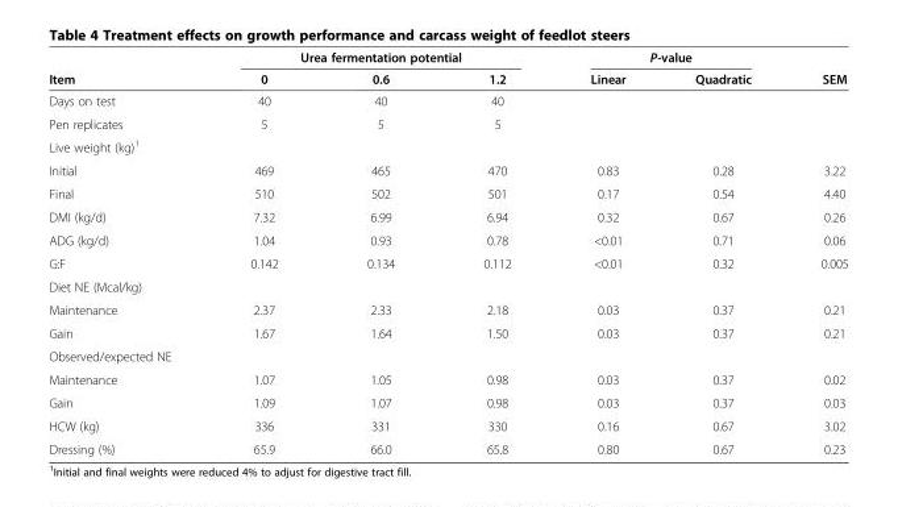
<table><thead><tr><td rowspan="2">Item</td><td colspan="3">Urea fermentation potential</td><td colspan="2">P-value</td><td rowspan="2">SEM</td></tr><tr><td>0</td><td>0.6</td><td>1.2</td><td>Linear</td><td>Quadratic</td></tr></thead><tbody><tr><td>Days on test</td><td>40</td><td>40</td><td>40</td><td></td><td></td><td></td></tr><tr><td>Pen replicates</td><td>5</td><td>5</td><td>5</td><td></td><td></td><td></td></tr><tr><td colspan="7">Live weight (kg)<sup>1</sup></td></tr><tr><td>Initial</td><td>469</td><td>465</td><td>470</td><td>0.83</td><td>0.28</td><td>3.22</td></tr><tr><td>Final</td><td>510</td><td>502</td><td>501</td><td>0.17</td><td>0.54</td><td>4.40</td></tr><tr><td>DMI (kg/d)</td><td>7.32</td><td>6.99</td><td>6.94</td><td>0.32</td><td>0.67</td><td>0.26</td></tr><tr><td>ADG (kg/d)</td><td>1.04</td><td>0.93</td><td>0.78</td><td>&lt;0.01</td><td>0.71</td><td>0.06</td></tr><tr><td>G:F</td><td>0.142</td><td>0.134</td><td>0.112</td><td>&lt;0.01</td><td>0.32</td><td>0.005</td></tr><tr><td colspan="7">Diet NE (Mcal/kg)</td></tr><tr><td>Maintenance</td><td>2.37</td><td>2.33</td><td>2.18</td><td>0.03</td><td>0.37</td><td>0.21</td></tr><tr><td>Gain</td><td>1.67</td><td>1.64</td><td>1.50</td><td>0.03</td><td>0.37</td><td>0.21</td></tr><tr><td colspan="7">Observed/expected NE</td></tr><tr><td>Maintenance</td><td>1.07</td><td>1.05</td><td>0.98</td><td>0.03</td><td>0.37</td><td>0.02</td></tr><tr><td>Gain</td><td>1.09</td><td>1.07</td><td>0.98</td><td>0.03</td><td>0.37</td><td>0.03</td></tr><tr><td>HCW (kg)</td><td>336</td><td>331</td><td>330</td><td>0.16</td><td>0.67</td><td>3.02</td></tr><tr><td>Dressing (%)</td><td>65.9</td><td>66.0</td><td>65.8</td><td>0.80</td><td>0.67</td><td>0.23</td></tr></tbody></table>